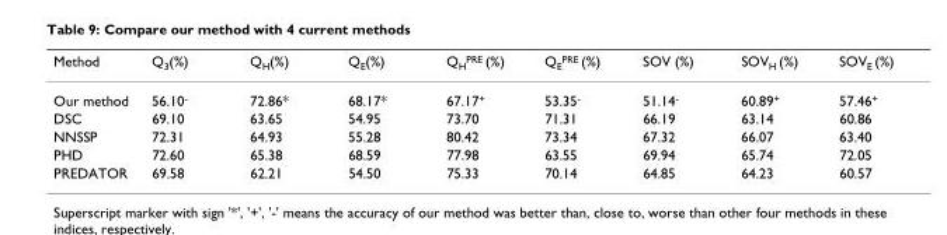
<table><thead><tr><td>Method</td><td>Q3(%)</td><td>QH(%)</td><td>QE(%)</td><td>QHPRE (%)</td><td>QEPRE (%)</td><td>SOV (%)</td><td>SOVH (%)</td><td>SOVE (%)</td></tr></thead><tbody><tr><td>Our method</td><td>56.10-</td><td>72.86*</td><td>68.17*</td><td>67.17+</td><td>53.35-</td><td>51.14-</td><td>60.89+</td><td>57.46+</td></tr><tr><td>DSC</td><td>69.10</td><td>63.65</td><td>54.95</td><td>73.70</td><td>71.31</td><td>66.19</td><td>63.14</td><td>60.86</td></tr><tr><td>NNSSP</td><td>72.31</td><td>64.93</td><td>55.28</td><td>80.42</td><td>73.34</td><td>67.32</td><td>66.07</td><td>63.40</td></tr><tr><td>PHD</td><td>72.60</td><td>65.38</td><td>68.59</td><td>77.98</td><td>63.55</td><td>69.94</td><td>65.74</td><td>72.05</td></tr><tr><td>PREDATOR</td><td>69.58</td><td>62.21</td><td>54.50</td><td>75.33</td><td>70.14</td><td>64.85</td><td>64.23</td><td>60.57</td></tr></tbody></table>